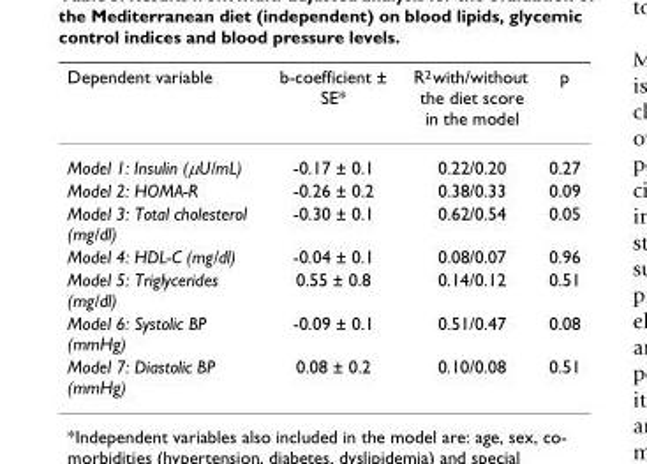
<table><thead><tr><td>Dependent variable</td><td>b-coefficient ± SE*</td><td>R<sup>2</sup> with/without the diet score in the model</td><td>p</td></tr></thead><tbody><tr><td>Model 1: Insulin (µU/mL)</td><td>-0.17 ± 0.1</td><td>0.22/0.20</td><td>0.27</td></tr><tr><td>Model 2: HOMA-R</td><td>-0.26 ± 0.2</td><td>0.38/0.33</td><td>0.09</td></tr><tr><td>Model 3: Total cholesterol (mg/dl)</td><td>-0.30 ± 0.1</td><td>0.62/0.54</td><td>0.05</td></tr><tr><td>Model 4: HDL-C (mg/dl)</td><td>-0.04 ± 0.1</td><td>0.08/0.07</td><td>0.96</td></tr><tr><td>Model 5: Triglycerides (mg/dl)</td><td>0.55 ± 0.8</td><td>0.14/0.12</td><td>0.51</td></tr><tr><td>Model 6: Systolic BP (mmHg)</td><td>-0.09 ± 0.1</td><td>0.51/0.47</td><td>0.08</td></tr><tr><td>Model 7: Diastolic BP (mmHg)</td><td>0.08 ± 0.2</td><td>0.10/0.08</td><td>0.51</td></tr></tbody></table>